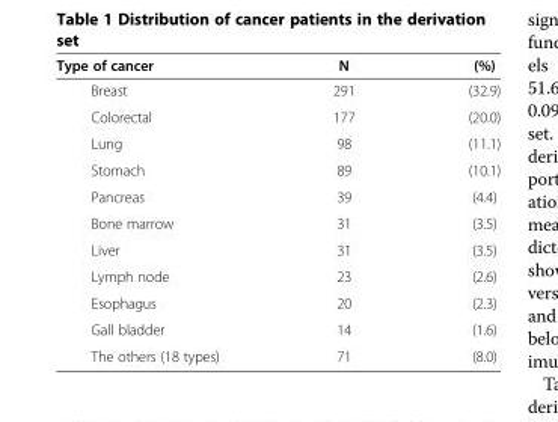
<table><thead><tr><td>Type of cancer</td><td>N</td><td>(%)</td></tr></thead><tbody><tr><td>Breast</td><td>291</td><td>(32.9)</td></tr><tr><td>Colorectal</td><td>177</td><td>(20.0)</td></tr><tr><td>Lung</td><td>98</td><td>(11.1)</td></tr><tr><td>Stomach</td><td>89</td><td>(10.1)</td></tr><tr><td>Pancreas</td><td>39</td><td>(4.4)</td></tr><tr><td>Bone marrow</td><td>31</td><td>(3.5)</td></tr><tr><td>Liver</td><td>31</td><td>(3.5)</td></tr><tr><td>Lymph node</td><td>23</td><td>(2.6)</td></tr><tr><td>Esophagus</td><td>20</td><td>(2.3)</td></tr><tr><td>Gall bladder</td><td>14</td><td>(1.6)</td></tr><tr><td>The others (18 types)</td><td>71</td><td>(8.0)</td></tr></tbody></table>